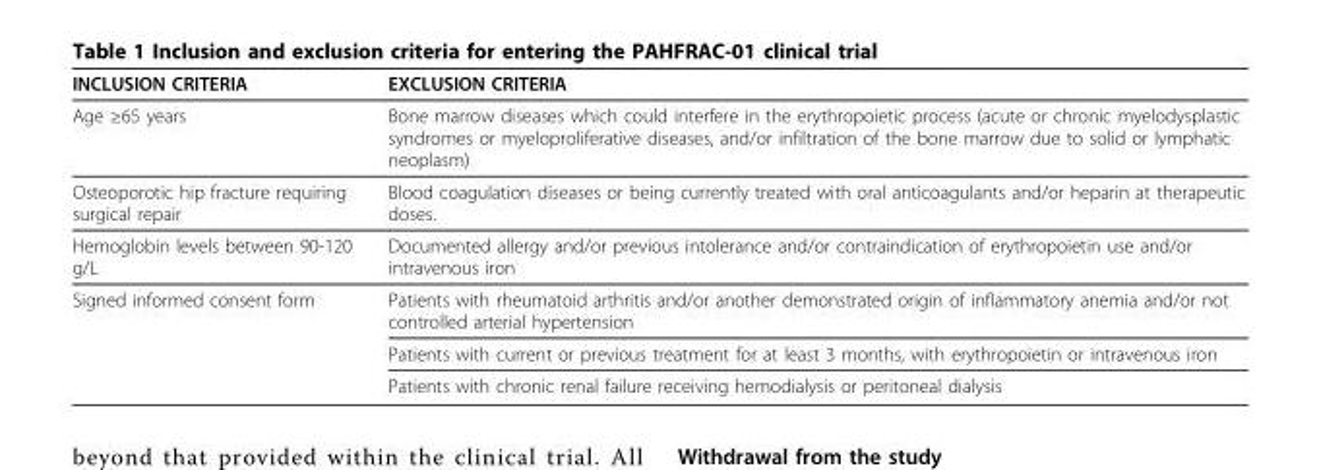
<table><thead><tr><td>INCLUSION CRITERIA</td><td>EXCLUSION CRITERIA</td></tr></thead><tbody><tr><td>Age ≥65 years</td><td>Bone marrow diseases which could interfere in the erythropoietic process (acute or chronic myelodysplastic syndromes or myeloproliferative diseases, and/or infiltration of the bone marrow due to solid or lymphatic neoplasm)</td></tr><tr><td>Osteoporotic hip fracture requiring surgical repair</td><td>Blood coagulation diseases or being currently treated with oral anticoagulants and/or heparin at therapeutic doses.</td></tr><tr><td>Hemoglobin levels between 90-120 g/L</td><td>Documented allergy and/or previous intolerance and/or contraindication of erythropoietin use and/or intravenous iron</td></tr><tr><td rowspan="3">Signed informed consent form</td><td>Patients with rheumatoid arthritis and/or another demonstrated origin of inflammatory anemia and/or not controlled arterial hypertension</td></tr><tr><td>Patients with current or previous treatment for at least 3 months, with erythropoietin or intravenous iron</td></tr><tr><td>Patients with chronic renal failure receiving hemodialysis or peritoneal dialysis</td></tr></tbody></table>